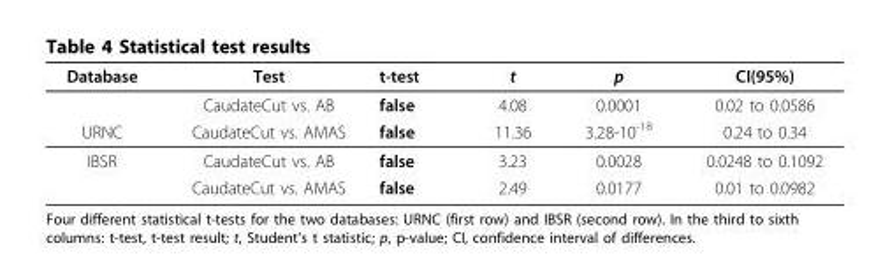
<table><thead><tr><td>Database</td><td>Test</td><td>t-test</td><td>t</td><td>p</td><td>CI(95%)</td></tr></thead><tbody><tr><td></td><td>CaudateCut vs. AB</td><td>false</td><td>4.08</td><td>0.0001</td><td>0.02 to 0.0586</td></tr><tr><td>URNC</td><td>CaudateCut vs. AMAS</td><td>false</td><td>11.36</td><td>3.28-10<sup>-18</sup></td><td>0.24 to 0.34</td></tr><tr><td rowspan="2">IBSR</td><td>CaudateCut vs. AB</td><td>false</td><td>3.23</td><td>0.0028</td><td>0.0248 to 0.1092</td></tr><tr><td>CaudateCut vs. AMAS</td><td>false</td><td>2.49</td><td>0.0177</td><td>0.01 to 0.0982</td></tr></tbody></table>